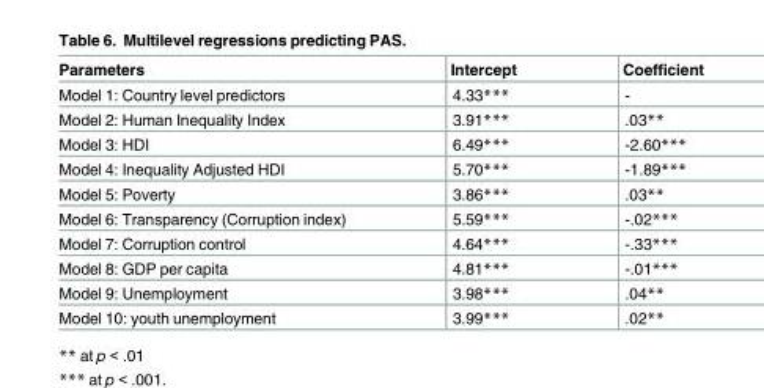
<table><thead><tr><td>Parameters</td><td>Intercept</td><td>Coefficient</td></tr></thead><tbody><tr><td>Model 1: Country level predictors</td><td>4.33***</td><td>-</td></tr><tr><td>Model 2: Human Inequality Index</td><td>3.91***</td><td>.03**</td></tr><tr><td>Model 3: HDI</td><td>6.49***</td><td>-2.60***</td></tr><tr><td>Model 4: Inequality Adjusted HDI</td><td>5.70***</td><td>-1.89***</td></tr><tr><td>Model 5: Poverty</td><td>3.86***</td><td>.03**</td></tr><tr><td>Model 6: Transparency (Corruption index)</td><td>5.59***</td><td>-.02***</td></tr><tr><td>Model 7: Corruption control</td><td>4.64***</td><td>-.33***</td></tr><tr><td>Model 8: GDP per capita</td><td>4.81***</td><td>-.01***</td></tr><tr><td>Model 9: Unemployment</td><td>3.98***</td><td>.04**</td></tr><tr><td>Model 10: youth unemployment</td><td>3.99***</td><td>.02**</td></tr></tbody></table>